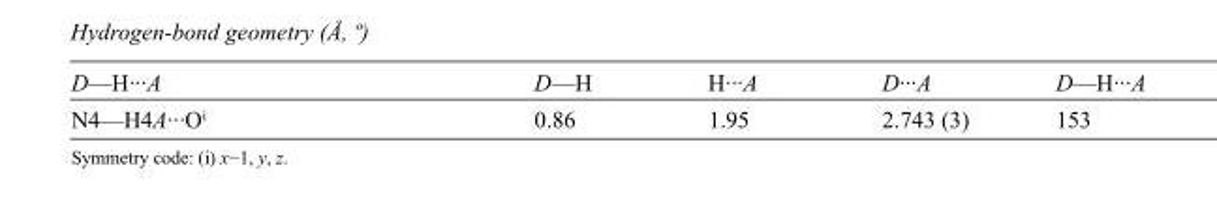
<table><tbody><tr><td>D—H···A</td><td>D—H</td><td>H···A</td><td>D···A</td><td>D—H···A</td></tr><tr><td>N4—H4A···O<sup>i</sup></td><td>0.86</td><td>1.95</td><td>2.743 (3)</td><td>153</td></tr></tbody></table>